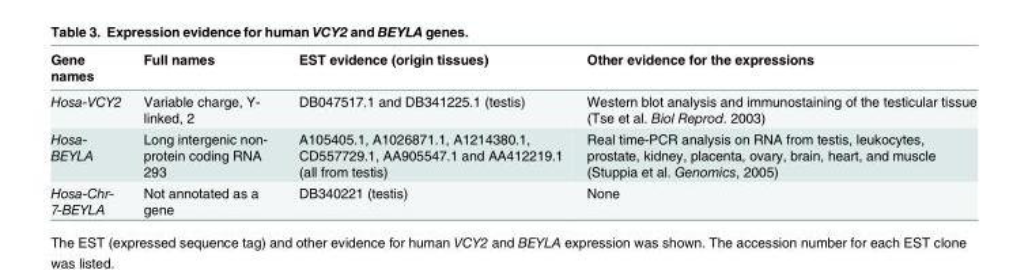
<table><thead><tr><td>Gene names</td><td>Full names</td><td>EST evidence (origin tissues)</td><td>Other evidence for the expressions</td></tr></thead><tbody><tr><td>Hosa-VCY2</td><td>Variable charge, Y- linked, 2</td><td>DB047517.1 and DB341225.1 (testis)</td><td>Western blot analysis and immunostaining of the testicular tissue (Tse et al. Biol Reprod. 2003)</td></tr><tr><td>Hosa- BEYLA</td><td>Long intergenic non- protein coding RNA 293</td><td>A105405.1, A1026871.1, A1214380.1, CD557729.1, AA905547.1 and AA412219.1 (all from testis)</td><td>Real time-PCR analysis on RNA from testis, leukocytes, prostate, kidney, placenta, ovary, brain, heart, and muscle (Stuppia et al. Genomics, 2005)</td></tr><tr><td>Hosa-Chr- 7-BEYLA</td><td>Not annotated as a gene</td><td>DB340221 (testis)</td><td>None</td></tr></tbody></table>